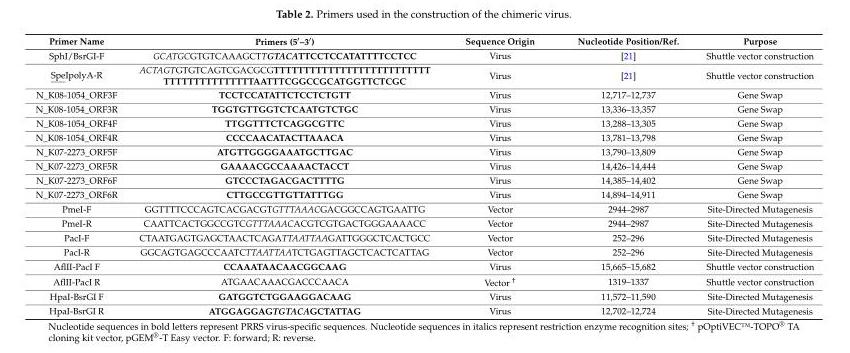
<table><thead><tr><td>Primer Name</td><td>Primers (5′–3′)</td><td>Sequence Origin</td><td>Nucleotide Position/Ref.</td><td>Purpose</td></tr></thead><tbody><tr><td>SphI/BsrGI-F</td><td>GCATGCGTGTCAAAGCTTGTACATTCCTCCATATTTTCCTCC</td><td>Virus</td><td>[21]</td><td>Shuttle vector construction</td></tr><tr><td>SpeIpolyA-R</td><td>ACTAGTGTGTCAGTCGACGCGTTTTTTTTTTTTTTTTTTTTTTTTTT TTTTTTTTTTTTTTTAATTTCGGCCGCATGGTTCTCGC</td><td>Virus</td><td>[21]</td><td>Shuttle vector construction</td></tr><tr><td>N_K08-1054_ORF3F</td><td>TCCTCCATATTCTCCTCTGTT</td><td>Virus</td><td>12,717–12,737</td><td>Gene Swap</td></tr><tr><td>N_K08-1054_ORF3R</td><td>TGGTGTTGGTCTCAATGTCTGC</td><td>Virus</td><td>13,336–13,357</td><td>Gene Swap</td></tr><tr><td>N_K08-1054_ORF4F</td><td>TTGGTTTCTCAGGCGTTC</td><td>Virus</td><td>13,288–13,305</td><td>Gene Swap</td></tr><tr><td>N_K08-1054_ORF4R</td><td>CCCCAACATACTTAAACA</td><td>Virus</td><td>13,781–13,798</td><td>Gene Swap</td></tr><tr><td>N_K07-2273_ORF5F</td><td>ATGTTGGGGAAATGCTTGAC</td><td>Virus</td><td>13,790–13,809</td><td>Gene Swap</td></tr><tr><td>N_K07-2273_ORF5R</td><td>GAAAACGCCAAAACTACCT</td><td>Virus</td><td>14,426–14,444</td><td>Gene Swap</td></tr><tr><td>N_K07-2273_ORF6F</td><td>GTCCCTAGACGACTTTTG</td><td>Virus</td><td>14,385–14,402</td><td>Gene Swap</td></tr><tr><td>N_K07-2273_ORF6R</td><td>CTTGCCGTTGTTATTTGG</td><td>Virus</td><td>14,894–14,911</td><td>Gene Swap</td></tr><tr><td>PmeI-F</td><td>GGTTTTCCCAGTCACGACGTGTTTAAACGACGGCCAGTGAATTG</td><td>Vector</td><td>2944–2987</td><td>Site-Directed Mutagenesis</td></tr><tr><td>PmeI-R</td><td>CAATTCACTGGCCGTCGTTTAAACACGTCGTGACTGGGAAAACC</td><td>Vector</td><td>2944–2987</td><td>Site-Directed Mutagenesis</td></tr><tr><td>PacI-F</td><td>CTAATGAGTGAGCTAACTCAGATTAATTAAGATTGGGCTCACTGCC</td><td>Vector</td><td>252–296</td><td>Site-Directed Mutagenesis</td></tr><tr><td>PacI-R</td><td>GGCAGTGAGCCCAATCTTAATTAATCTGAGTTAGCTCACTCATTAG</td><td>Vector</td><td>252–296</td><td>Site-Directed Mutagenesis</td></tr><tr><td>AflII-PacI F</td><td>CCAAATAACAACGGCAAG</td><td>Virus</td><td>15,665–15,682</td><td>Shuttle vector construction</td></tr><tr><td>AflII-PacI R</td><td>ATGAACAAACGACCCAACA</td><td>Vector <sup>†</sup></td><td>1319–1337</td><td>Shuttle vector construction</td></tr><tr><td>HpaI-BsrGI F</td><td>GATGGTCTGGAAGGACAAG</td><td>Virus</td><td>11,572–11,590</td><td>Site-Directed Mutagenesis</td></tr><tr><td>HpaI-BsrGI R</td><td>ATGGAGGAGTGTACAGCTATTAG</td><td>Virus</td><td>12,702–12,724</td><td>Site-Directed Mutagenesis</td></tr></tbody></table>